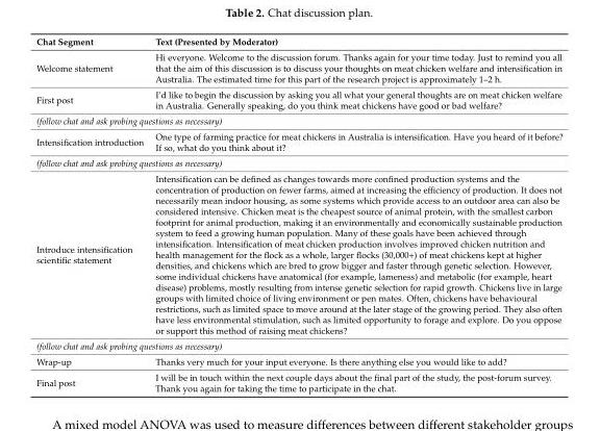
<table><thead><tr><td>Chat Segment</td><td>Text (Presented by Moderator)</td></tr></thead><tbody><tr><td>Welcome statement</td><td>Hi everyone. Welcome to the discussion forum. Thanks again for your time today. Just to remind you all that the aim of this discussion is to discuss your thoughts on meat chicken welfare and intensification in Australia. The estimated time for this part of the research project is approximately 1–2 h.</td></tr><tr><td>First post</td><td>I’d like to begin the discussion by asking you all what your general thoughts are on meat chicken welfare in Australia. Generally speaking, do you think meat chickens have good or bad welfare?</td></tr><tr><td colspan="2">(follow chat and ask probing questions as necessary)</td></tr><tr><td>Intensification introduction</td><td>One type of farming practice for meat chickens in Australia is intensification. Have you heard of it before? If so, what do you think about it?</td></tr><tr><td colspan="2">(follow chat and ask probing questions as necessary)</td></tr><tr><td>Introduce intensification scientific statement</td><td>Intensification can be defined as changes towards more confined production systems and the concentration of production on fewer farms, aimed at increasing the efficiency of production. It does not necessarily mean indoor housing, as some systems which provide access to an outdoor area can also be considered intensive. Chicken meat is the cheapest source of animal protein, with the smallest carbon footprint for animal production, making it an environmentally and economically sustainable production system to feed a growing human population. Many of these goals have been achieved through intensification. Intensification of meat chicken production involves improved chicken nutrition and health management for the flock as a whole, larger flocks (30,000+) of meat chickens kept at higher densities, and chickens which are bred to grow bigger and faster through genetic selection. However, some individual chickens have anatomical (for example, lameness) and metabolic (for example, heart disease) problems, mostly resulting from intense genetic selection for rapid growth. Chickens live in large groups with limited choice of living environment or pen mates. Often, chickens have behavioural restrictions, such as limited space to move around at the later stage of the growing period. They also often have less environmental stimulation, such as limited opportunity to forage and explore. Do you oppose or support this method of raising meat chickens?</td></tr><tr><td colspan="2">(follow chat and ask probing questions as necessary)</td></tr><tr><td>Wrap-up</td><td>Thanks very much for your input everyone. Is there anything else you would like to add?</td></tr><tr><td>Final post</td><td>I will be in touch within the next couple days about the final part of the study, the post-forum survey. Thank you again for taking the time to participate in the chat.</td></tr></tbody></table>